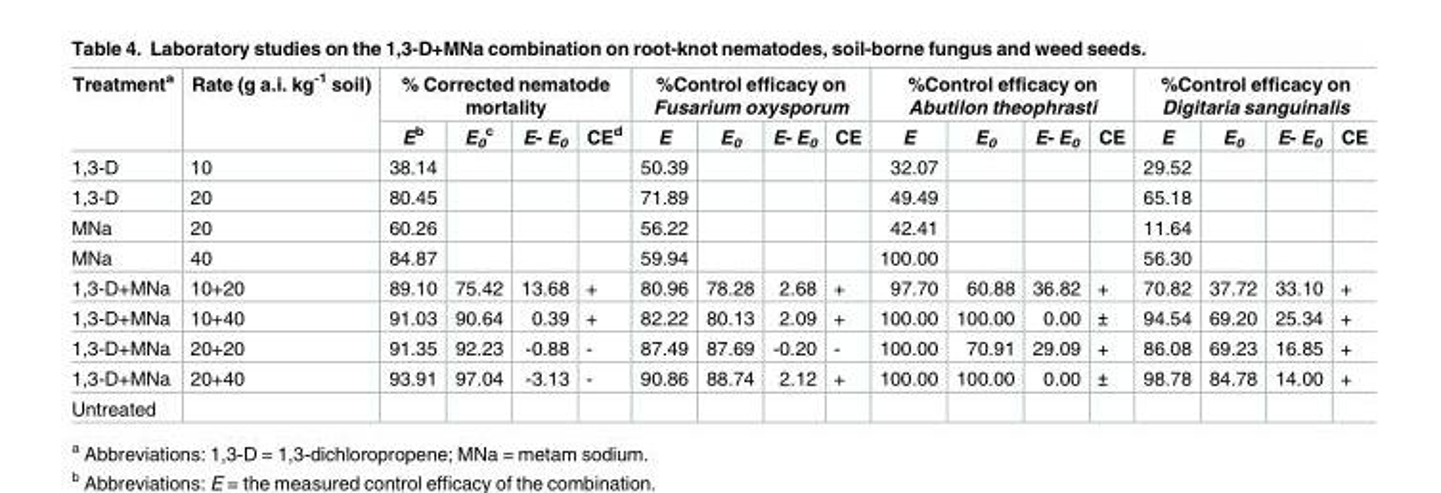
<table><thead><tr><td rowspan="2">Treatment<sup>a</sup></td><td rowspan="2">Rate (g a.i. kg<sup>-1</sup> soil)</td><td colspan="4">% Corrected nematode mortality</td><td colspan="4">%Control efficacy on Fusarium oxysporum</td><td colspan="4">%Control efficacy on Abutilon theophrasti</td><td colspan="4">%Control efficacy on Digitaria sanguinalis</td></tr><tr><td>E<sup>b</sup></td><td>E<sub>0</sub> <sup>c</sup></td><td>E- E<sub>0</sub></td><td>CE<sup>d</sup></td><td>E</td><td>E<sub>0</sub></td><td>E- E<sub>0</sub></td><td>CE</td><td>E</td><td>E<sub>0</sub></td><td>E- E<sub>0</sub></td><td>CE</td><td>E</td><td>E<sub>0</sub></td><td>E- E<sub>0</sub></td><td>CE</td></tr></thead><tbody><tr><td>1,3-D</td><td>10</td><td>38.14</td><td></td><td></td><td></td><td>50.39</td><td></td><td></td><td></td><td>32.07</td><td></td><td></td><td></td><td>29.52</td><td></td><td></td><td></td></tr><tr><td>1,3-D</td><td>20</td><td>80.45</td><td></td><td></td><td></td><td>71.89</td><td></td><td></td><td></td><td>49.49</td><td></td><td></td><td></td><td>65.18</td><td></td><td></td><td></td></tr><tr><td>MNa</td><td>20</td><td>60.26</td><td></td><td></td><td></td><td>56.22</td><td></td><td></td><td></td><td>42.41</td><td></td><td></td><td></td><td>11.64</td><td></td><td></td><td></td></tr><tr><td>MNa</td><td>40</td><td>84.87</td><td></td><td></td><td></td><td>59.94</td><td></td><td></td><td></td><td>100.00</td><td></td><td></td><td></td><td>56.30</td><td></td><td></td><td></td></tr><tr><td>1,3-D+MNa</td><td>10+20</td><td>89.10</td><td>75.42</td><td>13.68</td><td>+</td><td>80.96</td><td>78.28</td><td>2.68</td><td>+</td><td>97.70</td><td>60.88</td><td>36.82</td><td>+</td><td>70.82</td><td>37.72</td><td>33.10</td><td>+</td></tr><tr><td>1,3-D+MNa</td><td>10+40</td><td>91.03</td><td>90.64</td><td>0.39</td><td>+</td><td>82.22</td><td>80.13</td><td>2.09</td><td>+</td><td>100.00</td><td>100.00</td><td>0.00</td><td>±</td><td>94.54</td><td>69.20</td><td>25.34</td><td>+</td></tr><tr><td>1,3-D+MNa</td><td>20+20</td><td>91.35</td><td>92.23</td><td>-0.88</td><td>-</td><td>87.49</td><td>87.69</td><td>-0.20</td><td>-</td><td>100.00</td><td>70.91</td><td>29.09</td><td>+</td><td>86.08</td><td>69.23</td><td>16.85</td><td>+</td></tr><tr><td>1,3-D+MNa</td><td>20+40</td><td>93.91</td><td>97.04</td><td>-3.13</td><td>-</td><td>90.86</td><td>88.74</td><td>2.12</td><td>+</td><td>100.00</td><td>100.00</td><td>0.00</td><td>±</td><td>98.78</td><td>84.78</td><td>14.00</td><td>+</td></tr><tr><td>Untreated</td><td></td><td></td><td></td><td></td><td></td><td></td><td></td><td></td><td></td><td></td><td></td><td></td><td></td><td></td><td></td><td></td><td></td></tr></tbody></table>